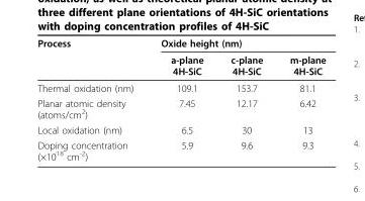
<table><thead><tr><td rowspan="2">Process</td><td colspan="3">Oxide height (nm)</td></tr><tr><td>a-plane 4H-SiC</td><td>c-plane 4H-SiC</td><td>m-plane 4H-SiC</td></tr></thead><tbody><tr><td>Thermal oxidation (nm)</td><td>109.1</td><td>153.7</td><td>81.1</td></tr><tr><td>Planar atomic density (atoms/cm<sup>2</sup>)</td><td>7.45</td><td>12.17</td><td>6.42</td></tr><tr><td>Local oxidation (nm)</td><td>6.5</td><td>30</td><td>13</td></tr><tr><td>Doping concentration (×10<sup>18</sup> cm<sup>-2</sup>)</td><td>5.9</td><td>9.6</td><td>9.3</td></tr></tbody></table>